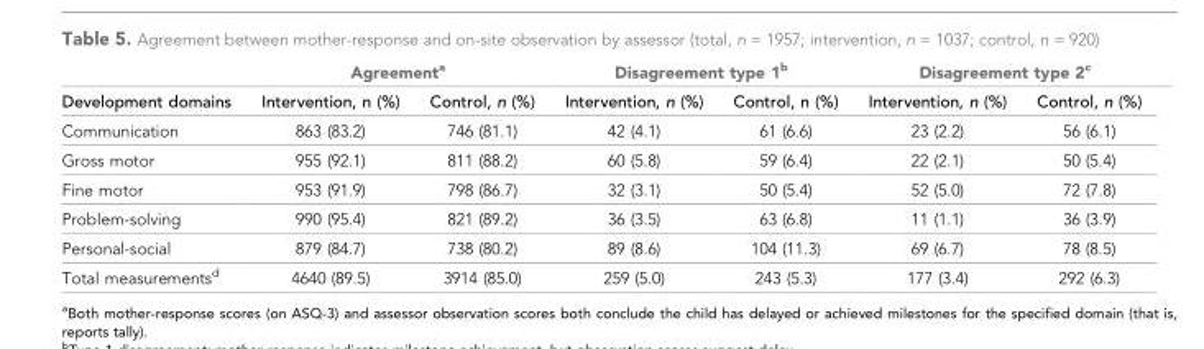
<table><thead><tr><td rowspan="2">Development domains</td><td colspan="2">Agreement<sup>a</sup></td><td colspan="2">Disagreement type 1<sup>b</sup></td><td colspan="2">Disagreement type 2<sup>c</sup></td></tr><tr><td>Intervention, n (%)</td><td>Control, n (%)</td><td>Intervention, n (%)</td><td>Control, n (%)</td><td>Intervention, n (%)</td><td>Control, n (%)</td></tr></thead><tbody><tr><td>Communication</td><td>863 (83.2)</td><td>746 (81.1)</td><td>42 (4.1)</td><td>61 (6.6)</td><td>23 (2.2)</td><td>56 (6.1)</td></tr><tr><td>Gross motor</td><td>955 (92.1)</td><td>811 (88.2)</td><td>60 (5.8)</td><td>59 (6.4)</td><td>22 (2.1)</td><td>50 (5.4)</td></tr><tr><td>Fine motor</td><td>953 (91.9)</td><td>798 (86.7)</td><td>32 (3.1)</td><td>50 (5.4)</td><td>52 (5.0)</td><td>72 (7.8)</td></tr><tr><td>Problem-solving</td><td>990 (95.4)</td><td>821 (89.2)</td><td>36 (3.5)</td><td>63 (6.8)</td><td>11 (1.1)</td><td>36 (3.9)</td></tr><tr><td>Personal-social</td><td>879 (84.7)</td><td>738 (80.2)</td><td>89 (8.6)</td><td>104 (11.3)</td><td>69 (6.7)</td><td>78 (8.5)</td></tr><tr><td>Total measurements<sup>d</sup></td><td>4640 (89.5)</td><td>3914 (85.0)</td><td>259 (5.0)</td><td>243 (5.3)</td><td>177 (3.4)</td><td>292 (6.3)</td></tr></tbody></table>